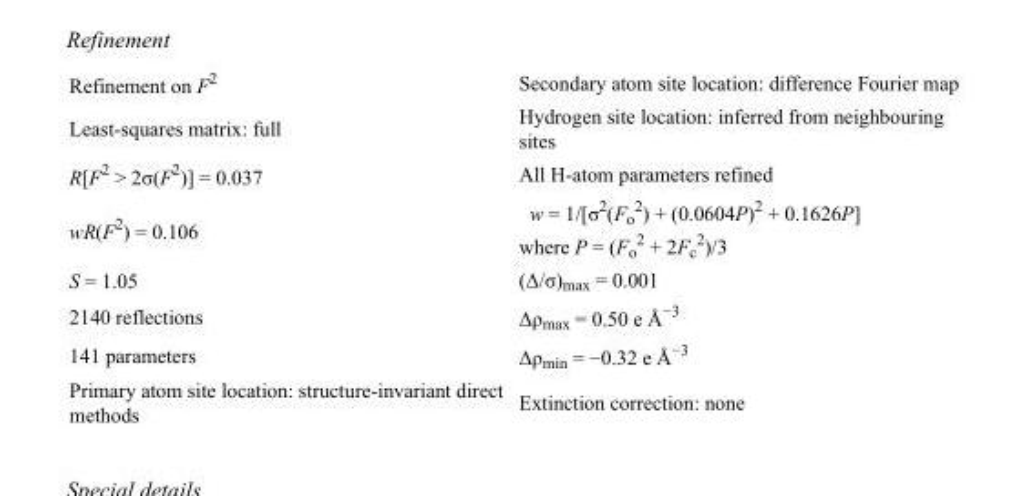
<table><tbody><tr><td>Refinement on F<sup>2</sup></td><td>Secondary atom site location: difference Fourier map</td></tr><tr><td>Least-squares matrix: full</td><td>Hydrogen site location: inferred from neighbouring sites</td></tr><tr><td>R[F<sup>2</sup> &gt; 2σ(F<sup>2</sup>)] = 0.037</td><td>All H-atom parameters refined</td></tr><tr><td>wR(F<sup>2</sup>) = 0.106</td><td>w = 1/[σ<sup>2</sup>(F<sub>o</sub> <sup>2</sup>) + (0.0604P)<sup>2</sup> + 0.1626P] where P = (F<sub>o</sub> <sup>2</sup> + 2F<sub>c</sub> <sup>2</sup>)/3</td></tr><tr><td>S = 1.05</td><td>(Δ/σ)<sub>max</sub> = 0.001</td></tr><tr><td>2140 reflections</td><td>Δρ<sub>max</sub> = 0.50 e Å<sup>−3</sup></td></tr><tr><td>141 parameters</td><td>Δρ<sub>min</sub> = −0.32 e Å<sup>−3</sup></td></tr><tr><td>Primary atom site location: structure-invariant direct methods</td><td>Extinction correction: none</td></tr></tbody></table>